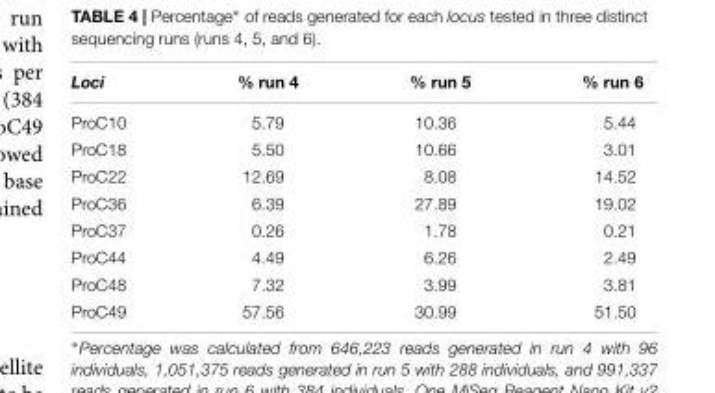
<table><thead><tr><td>Loci</td><td>% run 4</td><td>% run 5</td><td>% run 6</td></tr></thead><tbody><tr><td>ProC10</td><td>5.79</td><td>10.36</td><td>5.44</td></tr><tr><td>ProC18</td><td>5.50</td><td>10.66</td><td>3.01</td></tr><tr><td>ProC22</td><td>12.69</td><td>8.08</td><td>14.52</td></tr><tr><td>ProC36</td><td>6.39</td><td>27.89</td><td>19.02</td></tr><tr><td>ProC37</td><td>0.26</td><td>1.78</td><td>0.21</td></tr><tr><td>ProC44</td><td>4.49</td><td>6.26</td><td>2.49</td></tr><tr><td>ProC48</td><td>7.32</td><td>3.99</td><td>3.81</td></tr><tr><td>ProC49</td><td>57.56</td><td>30.99</td><td>51.50</td></tr></tbody></table>